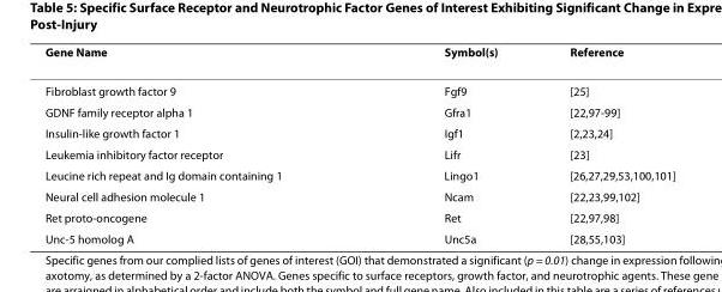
<table><thead><tr><td>Gene Name</td><td>Symbol(s)</td><td>Reference</td></tr></thead><tbody><tr><td>Fibroblast growth factor 9</td><td>Fgf9</td><td>[25]</td></tr><tr><td>GDNF family receptor alpha 1</td><td>Gfra1</td><td>[22,97-99]</td></tr><tr><td>Insulin-like growth factor 1</td><td>Igf1</td><td>[2,23,24]</td></tr><tr><td>Leukemia inhibitory factor receptor</td><td>Lifr</td><td>[23]</td></tr><tr><td>Leucine rich repeat and Ig domain containing 1</td><td>Lingo1</td><td>[26,27,29,53,100,101]</td></tr><tr><td>Neural cell adhesion molecule 1</td><td>Ncam</td><td>[22,23,99,102]</td></tr><tr><td>Ret proto-oncogene</td><td>Ret</td><td>[22,97,98]</td></tr><tr><td>Unc-5 homolog A</td><td>Unc5a</td><td>[28,55,103]</td></tr></tbody></table>